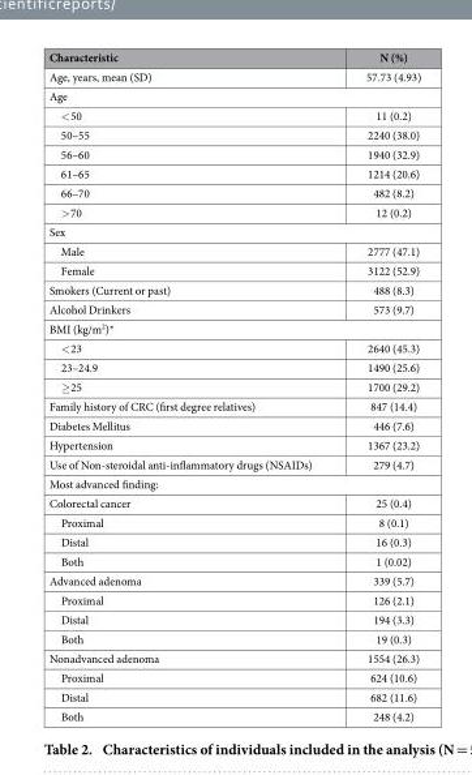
<table><thead><tr><td>Characteristic</td><td>N (%)</td></tr></thead><tbody><tr><td>Age, years, mean (SD)</td><td>57.73 (4.93)</td></tr><tr><td colspan="2">Age</td></tr><tr><td>&lt; 50</td><td>11 (0.2)</td></tr><tr><td>50–55</td><td>2240 (38.0)</td></tr><tr><td>56–60</td><td>1940 (32.9)</td></tr><tr><td>61–65</td><td>1214 (20.6)</td></tr><tr><td>66–70</td><td>482 (8.2)</td></tr><tr><td>&gt; 70</td><td>12 (0.2)</td></tr><tr><td colspan="2">Sex</td></tr><tr><td>Male</td><td>2777 (47.1)</td></tr><tr><td>Female</td><td>3122 (52.9)</td></tr><tr><td>Smokers (Current or past)</td><td>488 (8.3)</td></tr><tr><td>Alcohol Drinkers</td><td>573 (9.7)</td></tr><tr><td colspan="2">BMI (kg/m<sup>2</sup>)*</td></tr><tr><td>&lt; 23</td><td>2640 (45.3)</td></tr><tr><td>23–24.9</td><td>1490 (25.6)</td></tr><tr><td>≥ 25</td><td>1700 (29.2)</td></tr><tr><td>Family history of CRC (first degree relatives)</td><td>847 (14.4)</td></tr><tr><td>Diabetes Mellitus</td><td>446 (7.6)</td></tr><tr><td>Hypertension</td><td>1367 (23.2)</td></tr><tr><td>Use of Non-steroidal anti-inflammatory drugs (NSAIDs)</td><td>279 (4.7)</td></tr><tr><td colspan="2">Most advanced finding:</td></tr><tr><td>Colorectal cancer</td><td>25 (0.4)</td></tr><tr><td>Proximal</td><td>8 (0.1)</td></tr><tr><td>Distal</td><td>16 (0.3)</td></tr><tr><td>Both</td><td>1 (0.02)</td></tr><tr><td>Advanced adenoma</td><td>339 (5.7)</td></tr><tr><td>Proximal</td><td>126 (2.1)</td></tr><tr><td>Distal</td><td>194 (3.3)</td></tr><tr><td>Both</td><td>19 (0.3)</td></tr><tr><td>Nonadvanced adenoma</td><td>1554 (26.3)</td></tr><tr><td>Proximal</td><td>624 (10.6)</td></tr><tr><td>Distal</td><td>682 (11.6)</td></tr><tr><td>Both</td><td>248 (4.2)</td></tr></tbody></table>